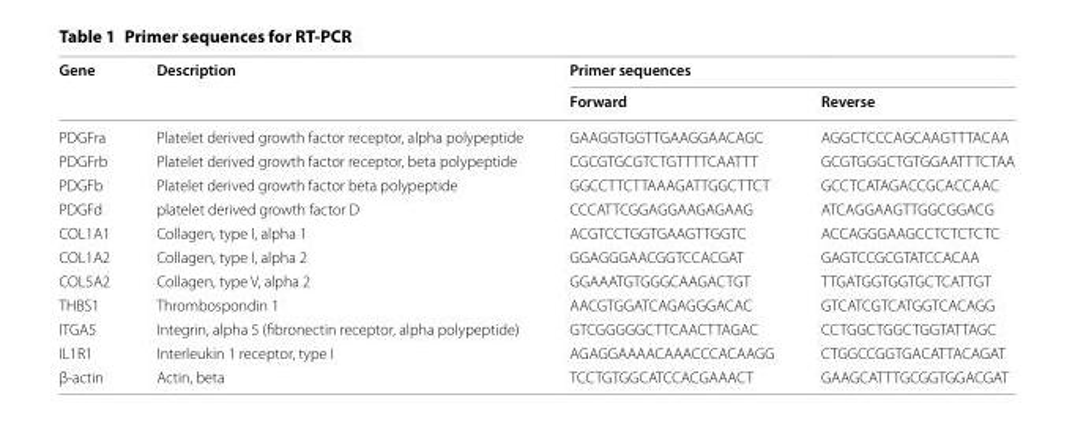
<table><thead><tr><td rowspan="2">Gene</td><td rowspan="2">Description</td><td colspan="2">Primer sequences</td></tr><tr><td>Forward</td><td>Reverse</td></tr></thead><tbody><tr><td>PDGFra</td><td>Platelet derived growth factor receptor, alpha polypeptide</td><td>GAAGGTGGTTGAAGGAACAGC</td><td>AGGCTCCCAGCAAGTTTACAA</td></tr><tr><td>PDGFrb</td><td>Platelet derived growth factor receptor, beta polypeptide</td><td>CGCGTGCGTCTGTTTTCAATTT</td><td>GCGTGGGCTGTGGAATTTCTAA</td></tr><tr><td>PDGFb</td><td>Platelet derived growth factor beta polypeptide</td><td>GGCCTTCTTAAAGATTGGCTTCT</td><td>GCCTCATAGACCGCACCAAC</td></tr><tr><td>PDGFd</td><td>platelet derived growth factor D</td><td>CCCATTCGGAGGAAGAGAAG</td><td>ATCAGGAAGTTGGCGGACG</td></tr><tr><td>COL1A1</td><td>Collagen, type I, alpha 1</td><td>ACGTCCTGGTGAAGTTGGTC</td><td>ACCAGGGAAGCCTCTCTCTC</td></tr><tr><td>COL1A2</td><td>Collagen, type I, alpha 2</td><td>GGAGGGAACGGTCCACGAT</td><td>GAGTCCGCGTATCCACAA</td></tr><tr><td>COL5A2</td><td>Collagen, type V, alpha 2</td><td>GGAAATGTGGGCAAGACTGT</td><td>TTGATGGTGGTGCTCATTGT</td></tr><tr><td>THBS1</td><td>Thrombospondin 1</td><td>AACGTGGATCAGAGGGACAC</td><td>GTCATCGTCATGGTCACAGG</td></tr><tr><td>ITGA5</td><td>Integrin, alpha 5 (fibronectin receptor, alpha polypeptide)</td><td>GTCGGGGGCTTCAACTTAGAC</td><td>CCTGGCTGGCTGGTATTAGC</td></tr><tr><td>IL1R1</td><td>Interleukin 1 receptor, type I</td><td>AGAGGAAAACAAACCCACAAGG</td><td>CTGGCCGGTGACATTACAGAT</td></tr><tr><td>β‑actin</td><td>Actin, beta</td><td>TCCTGTGGCATCCACGAAACT</td><td>GAAGCATTTGCGGTGGACGAT</td></tr></tbody></table>